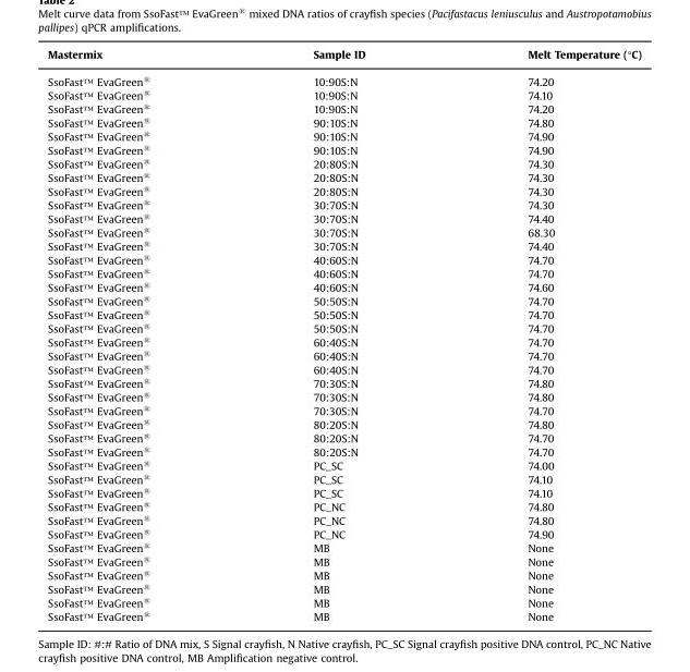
<table><thead><tr><td>Mastermix</td><td>Sample ID</td><td>Melt Temperature (°C)</td></tr></thead><tbody><tr><td>SsoFast™ EvaGreen®</td><td>10:90S:N</td><td>74.20</td></tr><tr><td>SsoFast™ EvaGreen®</td><td>10:90S:N</td><td>74.10</td></tr><tr><td>SsoFast™ EvaGreen®</td><td>10:90S:N</td><td>74.20</td></tr><tr><td>SsoFast™ EvaGreen®</td><td>90:10S:N</td><td>74.80</td></tr><tr><td>SsoFast™ EvaGreen®</td><td>90:10S:N</td><td>74.90</td></tr><tr><td>SsoFast™ EvaGreen®</td><td>90:10S:N</td><td>74.90</td></tr><tr><td>SsoFast™ EvaGreen®</td><td>20:80S:N</td><td>74.30</td></tr><tr><td>SsoFast™ EvaGreen®</td><td>20:80S:N</td><td>74.30</td></tr><tr><td>SsoFast™ EvaGreen®</td><td>20:80S:N</td><td>74.30</td></tr><tr><td>SsoFast™ EvaGreen®</td><td>30:70S:N</td><td>74.30</td></tr><tr><td>SsoFast™ EvaGreen®</td><td>30:70S:N</td><td>74.40</td></tr><tr><td>SsoFast™ EvaGreen®</td><td>30:70S:N</td><td>68.30</td></tr><tr><td>SsoFast™ EvaGreen®</td><td>30:70S:N</td><td>74.40</td></tr><tr><td>SsoFast™ EvaGreen®</td><td>40:60S:N</td><td>74.70</td></tr><tr><td>SsoFast™ EvaGreen®</td><td>40:60S:N</td><td>74.70</td></tr><tr><td>SsoFast™ EvaGreen®</td><td>40:60S:N</td><td>74.60</td></tr><tr><td>SsoFast™ EvaGreen®</td><td>50:50S:N</td><td>74.70</td></tr><tr><td>SsoFast™ EvaGreen®</td><td>50:50S:N</td><td>74.70</td></tr><tr><td>SsoFast™ EvaGreen®</td><td>50:50S:N</td><td>74.70</td></tr><tr><td>SsoFast™ EvaGreen®</td><td>60:40S:N</td><td>74.70</td></tr><tr><td>SsoFast™ EvaGreen®</td><td>60:40S:N</td><td>74.70</td></tr><tr><td>SsoFast™ EvaGreen®</td><td>60:40S:N</td><td>74.70</td></tr><tr><td>SsoFast™ EvaGreen®</td><td>70:30S:N</td><td>74.80</td></tr><tr><td>SsoFast™ EvaGreen®</td><td>70:30S:N</td><td>74.80</td></tr><tr><td>SsoFast™ EvaGreen®</td><td>70:30S:N</td><td>74.70</td></tr><tr><td>SsoFast™ EvaGreen®</td><td>80:20S:N</td><td>74.80</td></tr><tr><td>SsoFast™ EvaGreen®</td><td>80:20S:N</td><td>74.70</td></tr><tr><td>SsoFast™ EvaGreen®</td><td>80:20S:N</td><td>74.70</td></tr><tr><td>SsoFast™ EvaGreen®</td><td>PC_SC</td><td>74.00</td></tr><tr><td>SsoFast™ EvaGreen®</td><td>PC_SC</td><td>74.10</td></tr><tr><td>SsoFast™ EvaGreen®</td><td>PC_SC</td><td>74.10</td></tr><tr><td>SsoFast™ EvaGreen®</td><td>PC_NC</td><td>74.80</td></tr><tr><td>SsoFast™ EvaGreen®</td><td>PC_NC</td><td>74.80</td></tr><tr><td>SsoFast™ EvaGreen®</td><td>PC_NC</td><td>74.90</td></tr><tr><td>SsoFast™ EvaGreen®</td><td>MB</td><td>None</td></tr><tr><td>SsoFast™ EvaGreen®</td><td>MB</td><td>None</td></tr><tr><td>SsoFast™ EvaGreen®</td><td>MB</td><td>None</td></tr><tr><td>SsoFast™ EvaGreen®</td><td>MB</td><td>None</td></tr><tr><td>SsoFast™ EvaGreen®</td><td>MB</td><td>None</td></tr><tr><td>SsoFast™ EvaGreen®</td><td>MB</td><td>None</td></tr></tbody></table>